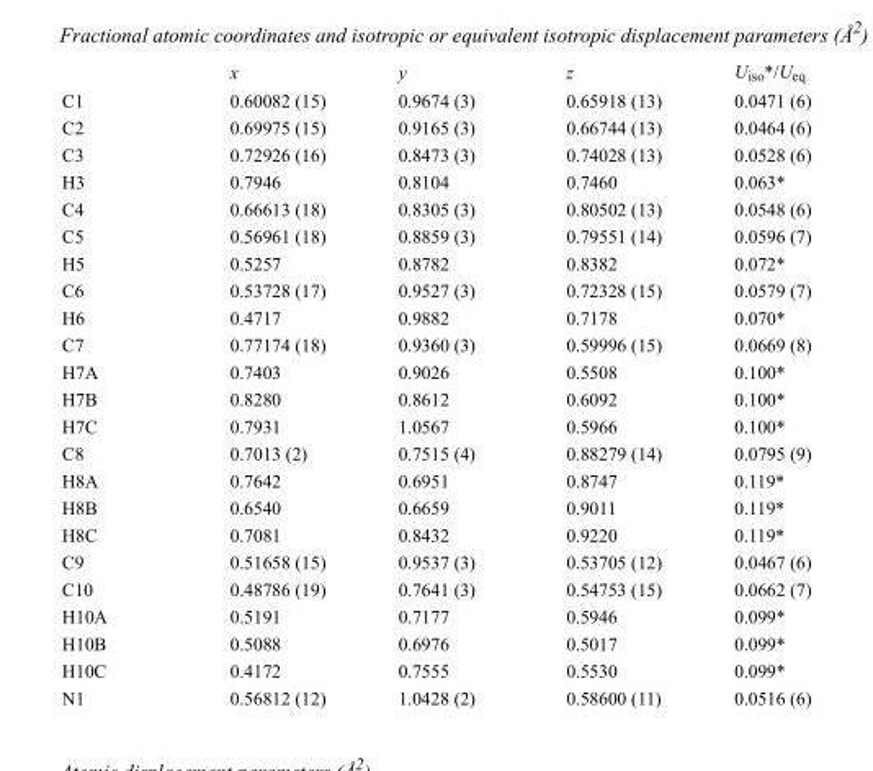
<table><thead><tr><td></td><td>x</td><td>y</td><td>z</td><td>U<sub>iso</sub>*/U<sub>eq</sub></td></tr></thead><tbody><tr><td>C1</td><td>0.60082 (15)</td><td>0.9674 (3)</td><td>0.65918 (13)</td><td>0.0471 (6)</td></tr><tr><td>C2</td><td>0.69975 (15)</td><td>0.9165 (3)</td><td>0.66744 (13)</td><td>0.0464 (6)</td></tr><tr><td>C3</td><td>0.72926 (16)</td><td>0.8473 (3)</td><td>0.74028 (13)</td><td>0.0528 (6)</td></tr><tr><td>H3</td><td>0.7946</td><td>0.8104</td><td>0.7460</td><td>0.063*</td></tr><tr><td>C4</td><td>0.66613 (18)</td><td>0.8305 (3)</td><td>0.80502 (13)</td><td>0.0548 (6)</td></tr><tr><td>C5</td><td>0.56961 (18)</td><td>0.8859 (3)</td><td>0.79551 (14)</td><td>0.0596 (7)</td></tr><tr><td>H5</td><td>0.5257</td><td>0.8782</td><td>0.8382</td><td>0.072*</td></tr><tr><td>C6</td><td>0.53728 (17)</td><td>0.9527 (3)</td><td>0.72328 (15)</td><td>0.0579 (7)</td></tr><tr><td>H6</td><td>0.4717</td><td>0.9882</td><td>0.7178</td><td>0.070*</td></tr><tr><td>C7</td><td>0.77174 (18)</td><td>0.9360 (3)</td><td>0.59996 (15)</td><td>0.0669 (8)</td></tr><tr><td>H7A</td><td>0.7403</td><td>0.9026</td><td>0.5508</td><td>0.100*</td></tr><tr><td>H7B</td><td>0.8280</td><td>0.8612</td><td>0.6092</td><td>0.100*</td></tr><tr><td>H7C</td><td>0.7931</td><td>1.0567</td><td>0.5966</td><td>0.100*</td></tr><tr><td>C8</td><td>0.7013 (2)</td><td>0.7515 (4)</td><td>0.88279 (14)</td><td>0.0795 (9)</td></tr><tr><td>H8A</td><td>0.7642</td><td>0.6951</td><td>0.8747</td><td>0.119*</td></tr><tr><td>H8B</td><td>0.6540</td><td>0.6659</td><td>0.9011</td><td>0.119*</td></tr><tr><td>H8C</td><td>0.7081</td><td>0.8432</td><td>0.9220</td><td>0.119*</td></tr><tr><td>C9</td><td>0.51658 (15)</td><td>0.9537 (3)</td><td>0.53705 (12)</td><td>0.0467 (6)</td></tr><tr><td>C10</td><td>0.48786 (19)</td><td>0.7641 (3)</td><td>0.54753 (15)</td><td>0.0662 (7)</td></tr><tr><td>H10A</td><td>0.5191</td><td>0.7177</td><td>0.5946</td><td>0.099*</td></tr><tr><td>H10B</td><td>0.5088</td><td>0.6976</td><td>0.5017</td><td>0.099*</td></tr><tr><td>H10C</td><td>0.4172</td><td>0.7555</td><td>0.5530</td><td>0.099*</td></tr><tr><td>N1</td><td>0.56812 (12)</td><td>1.0428 (2)</td><td>0.58600 (11)</td><td>0.0516 (6)</td></tr></tbody></table>